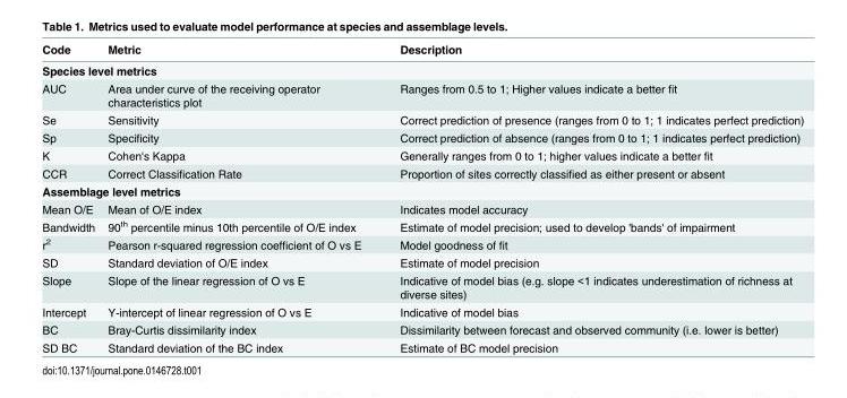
<table><thead><tr><td>Code</td><td>Metric</td><td>Description</td></tr></thead><tbody><tr><td colspan="3">Species level metrics</td></tr><tr><td>AUC</td><td>Area under curve of the receiving operator characteristics plot</td><td>Ranges from 0.5 to 1; Higher values indicate a better fit</td></tr><tr><td>Se</td><td>Sensitivity</td><td>Correct prediction of presence (ranges from 0 to 1; 1 indicates perfect prediction)</td></tr><tr><td>Sp</td><td>Specificity</td><td>Correct prediction of absence (ranges from 0 to 1; 1 indicates perfect prediction)</td></tr><tr><td>K</td><td>Cohen&#x27;s Kappa</td><td>Generally ranges from 0 to 1; higher values indicate a better fit</td></tr><tr><td>CCR</td><td>Correct Classification Rate</td><td>Proportion of sites correctly classified as either present or absent</td></tr><tr><td colspan="3">Assemblage level metrics</td></tr><tr><td>Mean O/E</td><td>Mean of O/E index</td><td>Indicates model accuracy</td></tr><tr><td>Bandwidth</td><td>90<sup>th</sup> percentile minus 10th percentile of O/E index</td><td>Estimate of model precision; used to develop &#x27;bands&#x27; of impairment</td></tr><tr><td>r<sup>2</sup></td><td>Pearson r-squared regression coefficient of O vs E</td><td>Model goodness of fit</td></tr><tr><td>SD</td><td>Standard deviation of O/E index</td><td>Estimate of model precision</td></tr><tr><td>Slope</td><td>Slope of the linear regression of O vs E</td><td>Indicative of model bias (e.g. slope &lt;1 indicates underestimation of richness at diverse sites)</td></tr><tr><td>Intercept</td><td>Y-intercept of linear regression of O vs E</td><td>Indicative of model bias</td></tr><tr><td>BC</td><td>Bray-Curtis dissimilarity index</td><td>Dissimilarity between forecast and observed community (i.e. lower is better)</td></tr><tr><td>SD BC</td><td>Standard deviation of the BC index</td><td>Estimate of BC model precision</td></tr></tbody></table>